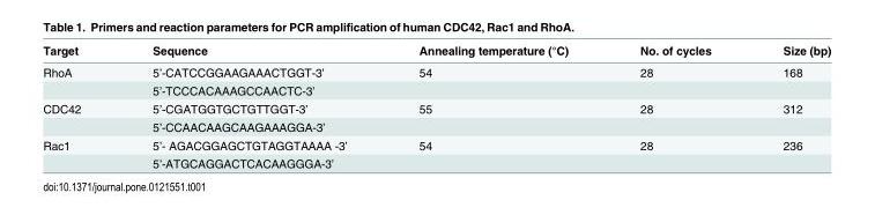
<table><thead><tr><td>Target</td><td>Sequence</td><td>Annealing temperature (°C)</td><td>No. of cycles</td><td>Size (bp)</td></tr></thead><tbody><tr><td rowspan="2">RhoA</td><td>5’-CATCCGGAAGAAACTGGT-3’</td><td>54</td><td>28</td><td>168</td></tr><tr><td>5’-TCCCACAAAGCCAACTC-3’</td><td></td><td></td><td></td></tr><tr><td rowspan="2">CDC42</td><td>5’-CGATGGTGCTGTTGGT-3’</td><td>55</td><td>28</td><td>312</td></tr><tr><td>5’-CCAACAAGCAAGAAAGGA-3’</td><td></td><td></td><td></td></tr><tr><td rowspan="2">Rac1</td><td>5’- AGACGGAGCTGTAGGTAAAA -3’</td><td>54</td><td>28</td><td>236</td></tr><tr><td>5’-ATGCAGGACTCACAAGGGA-3’</td><td></td><td></td><td></td></tr></tbody></table>